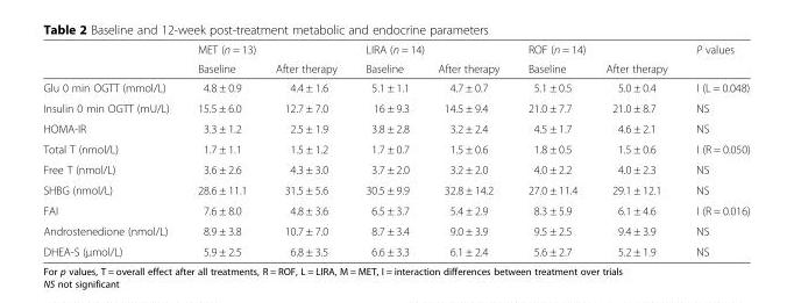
<table><thead><tr><td rowspan="2"></td><td colspan="2">MET (n = 13)</td><td colspan="2">LIRA (n = 14)</td><td colspan="2">ROF (n = 14)</td><td rowspan="2">P values</td></tr><tr><td>Baseline</td><td>After therapy</td><td>Baseline</td><td>After therapy</td><td>Baseline</td><td>After therapy</td></tr></thead><tbody><tr><td>Glu 0 min OGTT (mmol/L)</td><td>4.8 ± 0.9</td><td>4.4 ± 1.6</td><td>5.1 ± 1.1</td><td>4.7 ± 0.7</td><td>5.1 ± 0.5</td><td>5.0 ± 0.4</td><td>I (L = 0.048)</td></tr><tr><td>Insulin 0 min OGTT (mU/L)</td><td>15.5 ± 6.0</td><td>12.7 ± 7.0</td><td>16 ± 9.3</td><td>14.5 ± 9.4</td><td>21.0 ± 7.7</td><td>21.0 ± 8.7</td><td>NS</td></tr><tr><td>HOMA-IR</td><td>3.3 ± 1.2</td><td>2.5 ± 1.9</td><td>3.8 ± 2.8</td><td>3.2 ± 2.4</td><td>4.5 ± 1.7</td><td>4.6 ± 2.1</td><td>NS</td></tr><tr><td>Total T (nmol/L)</td><td>1.7 ± 1.1</td><td>1.5 ± 1.2</td><td>1.7 ± 0.7</td><td>1.5 ± 0.6</td><td>1.8 ± 0.5</td><td>1.5 ± 0.6</td><td>I (R = 0.050)</td></tr><tr><td>Free T (nmol/L)</td><td>3.6 ± 2.6</td><td>4.3 ± 3.0</td><td>3.7 ± 2.0</td><td>3.2 ± 2.0</td><td>4.0 ± 2.2</td><td>4.0 ± 2.3</td><td>NS</td></tr><tr><td>SHBG (nmol/L)</td><td>28.6 ± 11.1</td><td>31.5 ± 5.6</td><td>30.5 ± 9.9</td><td>32.8 ± 14.2</td><td>27.0 ± 11.4</td><td>29.1 ± 12.1</td><td>NS</td></tr><tr><td>FAI</td><td>7.6 ± 8.0</td><td>4.8 ± 3.6</td><td>6.5 ± 3.7</td><td>5.4 ± 2.9</td><td>8.3 ± 5.9</td><td>6.1 ± 4.6</td><td>I (R = 0.016)</td></tr><tr><td>Androstenedione (nmol/L)</td><td>8.9 ± 3.8</td><td>10.7 ± 7.0</td><td>8.7 ± 3.4</td><td>9.0 ± 3.9</td><td>9.5 ± 2.5</td><td>9.4 ± 3.9</td><td>NS</td></tr><tr><td>DHEA-S (μmol/L)</td><td>5.9 ± 2.5</td><td>6.8 ± 3.5</td><td>6.6 ± 3.3</td><td>6.1 ± 2.4</td><td>5.6 ± 2.7</td><td>5.2 ± 1.9</td><td>NS</td></tr></tbody></table>